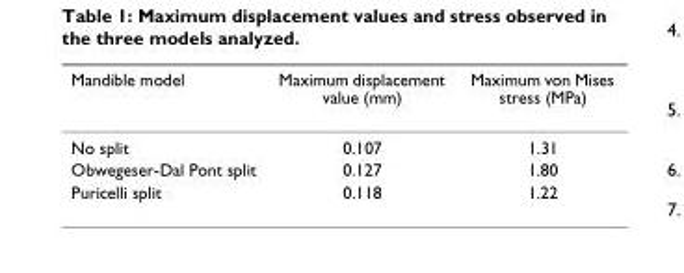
<table><thead><tr><td>Mandible model</td><td>Maximum displacement value (mm)</td><td>Maximum von Mises stress (MPa)</td></tr></thead><tbody><tr><td>No split</td><td>0.107</td><td>1.31</td></tr><tr><td>Obwegeser-Dal Pont split</td><td>0.127</td><td>1.80</td></tr><tr><td>Puricelli split</td><td>0.118</td><td>1.22</td></tr></tbody></table>